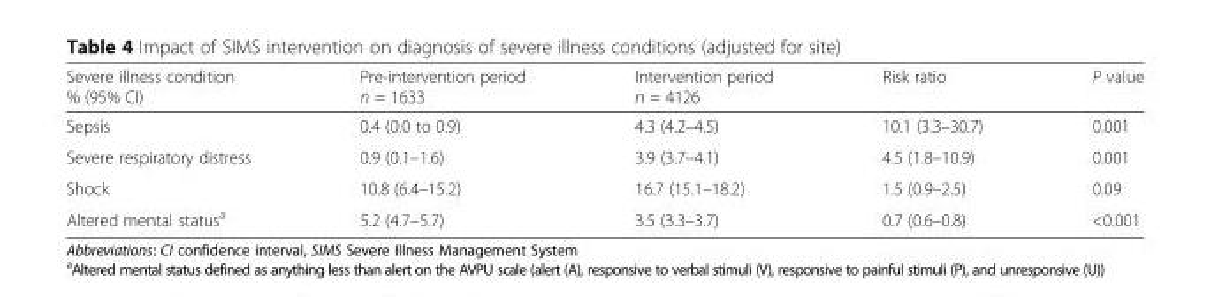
<table><thead><tr><td>Severe illness condition % (95% CI)</td><td>Pre-intervention period n = 1633</td><td>Intervention period n = 4126</td><td>Risk ratio</td><td>P value</td></tr></thead><tbody><tr><td>Sepsis</td><td>0.4 (0.0 to 0.9)</td><td>4.3 (4.2–4.5)</td><td>10.1 (3.3–30.7)</td><td>0.001</td></tr><tr><td>Severe respiratory distress</td><td>0.9 (0.1–1.6)</td><td>3.9 (3.7–4.1)</td><td>4.5 (1.8–10.9)</td><td>0.001</td></tr><tr><td>Shock</td><td>10.8 (6.4–15.2)</td><td>16.7 (15.1–18.2)</td><td>1.5 (0.9–2.5)</td><td>0.09</td></tr><tr><td>Altered mental status<sup>a</sup></td><td>5.2 (4.7–5.7)</td><td>3.5 (3.3–3.7)</td><td>0.7 (0.6–0.8)</td><td>&lt;0.001</td></tr></tbody></table>